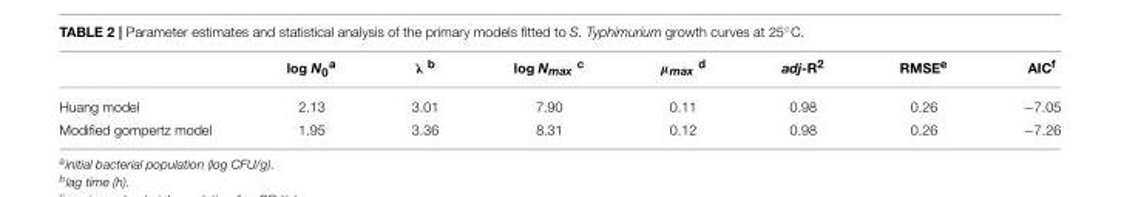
<table><thead><tr><td></td><td>log N<sub>0</sub><sup>a</sup></td><td>λ <sup>b</sup></td><td>log N<sub>max</sub> <sup>c</sup></td><td>µ<sub>max</sub> <sup>d</sup></td><td>adj-R<sup>2</sup></td><td>RMSE<sup>e</sup></td><td>AIC<sup>f</sup></td></tr></thead><tbody><tr><td>Huang model</td><td>2.13</td><td>3.01</td><td>7.90</td><td>0.11</td><td>0.98</td><td>0.26</td><td>−7.05</td></tr><tr><td>Modified gompertz model</td><td>1.95</td><td>3.36</td><td>8.31</td><td>0.12</td><td>0.98</td><td>0.26</td><td>−7.26</td></tr></tbody></table>